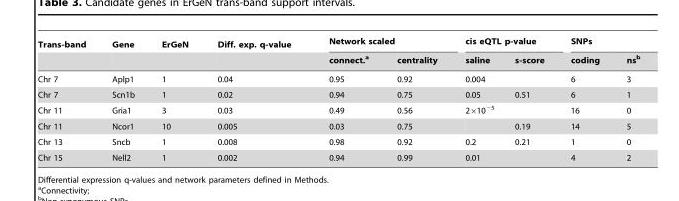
<table><thead><tr><td rowspan="2">Trans-band</td><td rowspan="2">Gene</td><td rowspan="2">ErGeN</td><td rowspan="2">Diff. exp. q-value</td><td colspan="2">Network scaled</td><td colspan="2">cis eQTL p-value</td><td colspan="2">SNPs</td></tr><tr><td>connect.<sup>a</sup></td><td>centrality</td><td>saline</td><td>s-score</td><td>coding</td><td>ns<sup>b</sup></td></tr></thead><tbody><tr><td>Chr 7</td><td>Aplp1</td><td>1</td><td>0.04</td><td>0.95</td><td>0.92</td><td>0.004</td><td></td><td>6</td><td>3</td></tr><tr><td>Chr 7</td><td>Scn1b</td><td>1</td><td>0.02</td><td>0.94</td><td>0.75</td><td>0.05</td><td>0.51</td><td>6</td><td>1</td></tr><tr><td>Chr 11</td><td>Gria1</td><td>3</td><td>0.03</td><td>0.49</td><td>0.56</td><td>2×10<sup>−5</sup></td><td></td><td>16</td><td>0</td></tr><tr><td>Chr 11</td><td>Ncor1</td><td>10</td><td>0.005</td><td>0.03</td><td>0.75</td><td></td><td>0.19</td><td>14</td><td>5</td></tr><tr><td>Chr 13</td><td>Sncb</td><td>1</td><td>0.008</td><td>0.98</td><td>0.92</td><td>0.2</td><td>0.21</td><td>1</td><td>0</td></tr><tr><td>Chr 15</td><td>Nell2</td><td>1</td><td>0.002</td><td>0.94</td><td>0.99</td><td>0.01</td><td></td><td>4</td><td>2</td></tr></tbody></table>